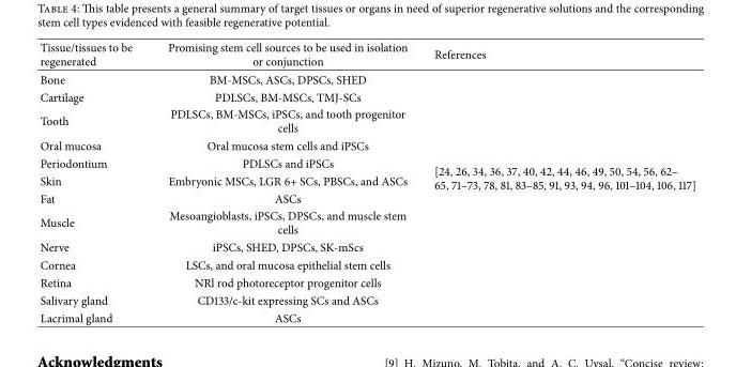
<table><thead><tr><td>Tissue/tissues to be regenerated</td><td>Promising stem cell sources to be used in isolation or conjunction</td><td>References</td></tr></thead><tbody><tr><td>Bone</td><td>BM-MSCs, ASCs, DPSCs, SHED</td><td rowspan="13">[24, 26, 34, 36, 37, 40, 42, 44, 46, 49, 50, 54, 56, 62– 65, 71–73, 78, 81, 83–85, 91, 93, 94, 96, 101–104, 106, 117]</td></tr><tr><td>Cartilage</td><td>PDLSCs, BM-MSCs, TMJ-SCs</td></tr><tr><td>Tooth</td><td>PDLSCs, BM-MSCs, iPSCs, and tooth progenitor cells</td></tr><tr><td>Oral mucosa</td><td>Oral mucosa stem cells and iPSCs</td></tr><tr><td>Periodontium</td><td>PDLSCs and iPSCs</td></tr><tr><td>Skin</td><td>Embryonic MSCs, LGR 6+ SCs, PBSCs, and ASCs</td></tr><tr><td>Fat</td><td>ASCs</td></tr><tr><td>Muscle</td><td>Mesoangioblasts, iPSCs, DPSCs, and muscle stem cells</td></tr><tr><td>Nerve</td><td>iPSCs, SHED, DPSCs, SK-mScs</td></tr><tr><td>Cornea</td><td>LSCs, and oral mucosa epithelial stem cells</td></tr><tr><td>Retina</td><td>NRl rod photoreceptor progenitor cells</td></tr><tr><td>Salivary gland</td><td>CD133/c-kit expressing SCs and ASCs</td></tr><tr><td>Lacrimal gland</td><td>ASCs</td></tr></tbody></table>